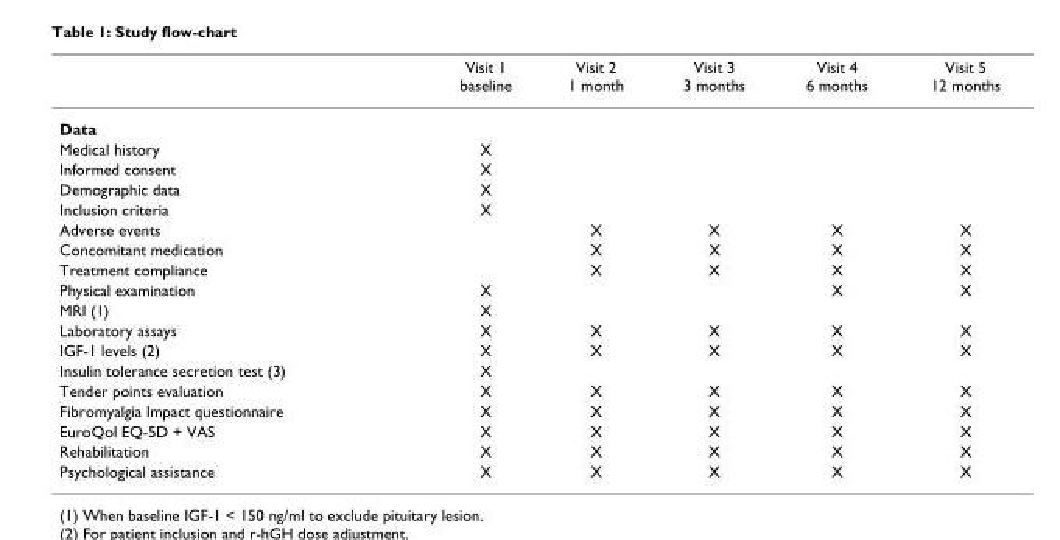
<table><thead><tr><td></td><td>Visit 1 baseline</td><td>Visit 2 1 month</td><td>Visit 3 3 months</td><td>Visit 4 6 months</td><td>Visit 5 12 months</td></tr></thead><tbody><tr><td colspan="6">Data</td></tr><tr><td>Medical history</td><td>X</td><td></td><td></td><td></td><td></td></tr><tr><td>Informed consent</td><td>X</td><td></td><td></td><td></td><td></td></tr><tr><td>Demographic data</td><td>X</td><td></td><td></td><td></td><td></td></tr><tr><td>Inclusion criteria</td><td>X</td><td></td><td></td><td></td><td></td></tr><tr><td>Adverse events</td><td></td><td>X</td><td>X</td><td>X</td><td>X</td></tr><tr><td>Concomitant medication</td><td></td><td>X</td><td>X</td><td>X</td><td>X</td></tr><tr><td>Treatment compliance</td><td></td><td>X</td><td>X</td><td>X</td><td>X</td></tr><tr><td>Physical examination</td><td>X</td><td></td><td></td><td>X</td><td>X</td></tr><tr><td>MRI (1)</td><td>X</td><td></td><td></td><td></td><td></td></tr><tr><td>Laboratory assays</td><td>X</td><td>X</td><td>X</td><td>X</td><td>X</td></tr><tr><td>IGF-1 levels (2)</td><td>X</td><td>X</td><td>X</td><td>X</td><td>X</td></tr><tr><td>Insulin tolerance secretion test (3)</td><td>X</td><td></td><td></td><td></td><td></td></tr><tr><td>Tender points evaluation</td><td>X</td><td>X</td><td>X</td><td>X</td><td>X</td></tr><tr><td>Fibromyalgia Impact questionnaire</td><td>X</td><td>X</td><td>X</td><td>X</td><td>X</td></tr><tr><td>EuroQol EQ-5D + VAS</td><td>X</td><td>X</td><td>X</td><td>X</td><td>X</td></tr><tr><td>Rehabilitation</td><td>X</td><td>X</td><td>X</td><td>X</td><td>X</td></tr><tr><td>Psychological assistance</td><td>X</td><td>X</td><td>X</td><td>X</td><td>X</td></tr></tbody></table>